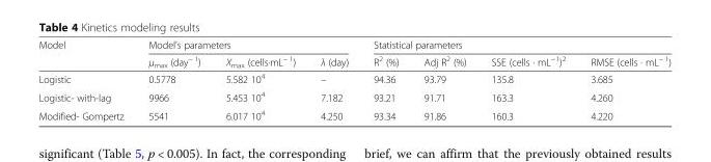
<table><thead><tr><td rowspan="2">Model</td><td colspan="3">Model’s parameters</td><td colspan="4">Statistical parameters</td></tr><tr><td>μ<sub>max</sub> (day<sup>− 1</sup>)</td><td>X<sub>max</sub> (cells·mL<sup>− 1</sup>)</td><td>λ (day)</td><td>R<sup>2</sup> (%)</td><td>Adj R<sup>2</sup> (%)</td><td>SSE (cells · mL<sup>−1</sup>)<sup>2</sup></td><td>RMSE (cells · mL<sup>− 1</sup>)</td></tr></thead><tbody><tr><td>Logistic</td><td>0.5778</td><td>5.582 10<sup>4</sup></td><td>–</td><td>94.36</td><td>93.79</td><td>135.8</td><td>3.685</td></tr><tr><td>Logistic- with-lag</td><td>9966</td><td>5.453 10<sup>4</sup></td><td>7.182</td><td>93.21</td><td>91.71</td><td>163.3</td><td>4.260</td></tr><tr><td>Modified- Gompertz</td><td>5541</td><td>6.017 10<sup>4</sup></td><td>4.250</td><td>93.34</td><td>91.86</td><td>160.3</td><td>4.220</td></tr></tbody></table>